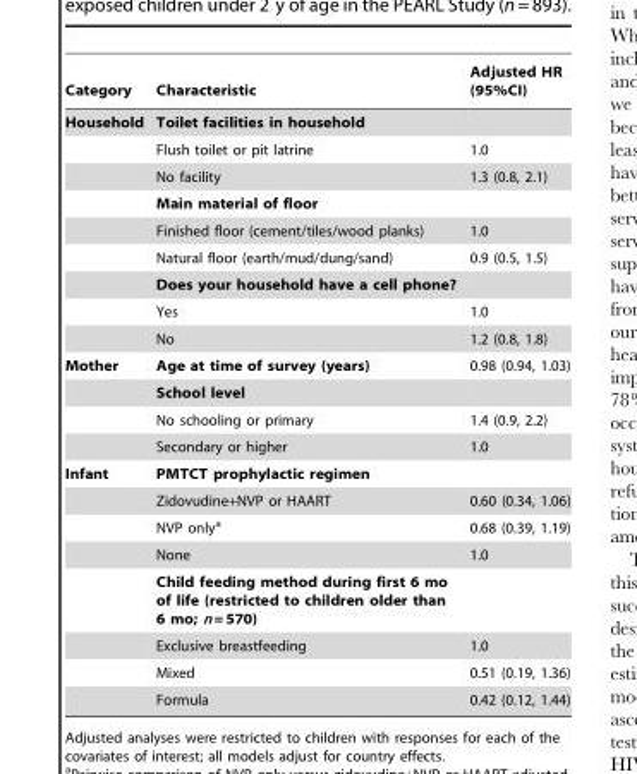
<table><thead><tr><td>Category</td><td>Characteristic</td><td>Adjusted HR (95%CI)</td></tr></thead><tbody><tr><td rowspan="9">Household</td><td>Toilet facilities in household</td><td></td></tr><tr><td>Flush toilet or pit latrine</td><td>1.0</td></tr><tr><td>No facility</td><td>1.3 (0.8, 2.1)</td></tr><tr><td>Main material of floor</td><td></td></tr><tr><td>Finished floor (cement/tiles/wood planks)</td><td>1.0</td></tr><tr><td>Natural floor (earth/mud/dung/sand)</td><td>0.9 (0.5, 1.5)</td></tr><tr><td>Does your household have a cell phone?</td><td></td></tr><tr><td>Yes</td><td>1.0</td></tr><tr><td>No</td><td>1.2 (0.8, 1.8)</td></tr><tr><td rowspan="4">Mother</td><td>Age at time of survey (years)</td><td>0.98 (0.94, 1.03)</td></tr><tr><td>School level</td><td></td></tr><tr><td>No schooling or primary</td><td>1.4 (0.9, 2.2)</td></tr><tr><td>Secondary or higher</td><td>1.0</td></tr><tr><td rowspan="8">Infant</td><td>PMTCT prophylactic regimen</td><td></td></tr><tr><td>Zidovudine+NVP or HAART</td><td>0.60 (0.34, 1.06)</td></tr><tr><td>NVP only<sup>a</sup></td><td>0.68 (0.39, 1.19)</td></tr><tr><td>None</td><td>1.0</td></tr><tr><td>Child feeding method during first 6 mo of life (restricted to children older than 6 mo; n = 570)</td><td></td></tr><tr><td>Exclusive breastfeeding</td><td>1.0</td></tr><tr><td>Mixed</td><td>0.51 (0.19, 1.36)</td></tr><tr><td>Formula</td><td>0.42 (0.12, 1.44)</td></tr></tbody></table>